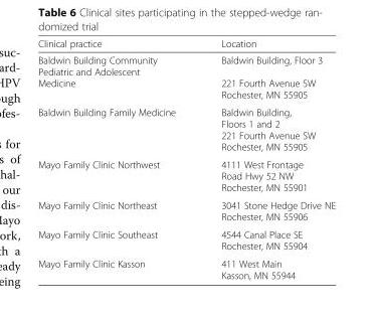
<table><thead><tr><td>Clinical practice</td><td>Location</td></tr></thead><tbody><tr><td>Baldwin Building Community Pediatric and Adolescent Medicine</td><td>Baldwin Building, Floor 3 221 Fourth Avenue SW Rochester, MN 55905</td></tr><tr><td>Baldwin Building Family Medicine</td><td>Baldwin Building, Floors 1 and 2 221 Fourth Avenue SW Rochester, MN 55905</td></tr><tr><td>Mayo Family Clinic Northwest</td><td>4111 West Frontage Road Hwy 52 NW Rochester, MN 55901</td></tr><tr><td>Mayo Family Clinic Northeast</td><td>3041 Stone Hedge Drive NE Rochester, MN 55906</td></tr><tr><td>Mayo Family Clinic Southeast</td><td>4544 Canal Place SE Rochester, MN 55904</td></tr><tr><td>Mayo Family Clinic Kasson</td><td>411 West Main Kasson, MN 55944</td></tr></tbody></table>